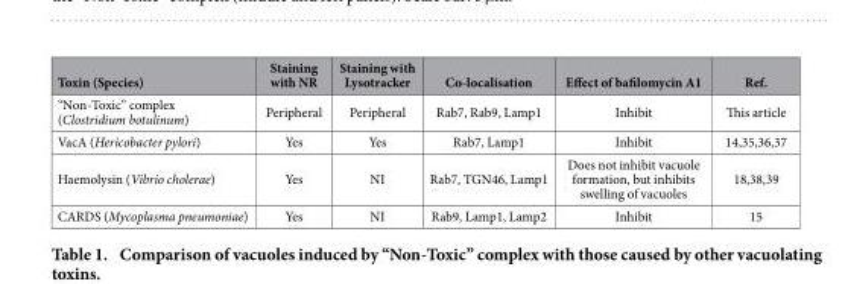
<table><thead><tr><td>Toxin (Species)</td><td>Staining with NR</td><td>Staining with Lysotracker</td><td>Co-localisation</td><td>Effect of bafilomycin A1</td><td>Ref.</td></tr></thead><tbody><tr><td>“Non-Toxic” complex (Clostridium botulinum)</td><td>Peripheral</td><td>Peripheral</td><td>Rab7, Rab9, Lamp1</td><td>Inhibit</td><td>This article</td></tr><tr><td>VacA (Hericobacter pylori)</td><td>Yes</td><td>Yes</td><td>Rab7, Lamp1</td><td>Inhibit</td><td>14,35,36,37</td></tr><tr><td>Haemolysin (Vibrio cholerae)</td><td>Yes</td><td>NI</td><td>Rab7, TGN46, Lamp1</td><td>Does not inhibit vacuole formation, but inhibits swelling of vacuoles</td><td>18,38,39</td></tr><tr><td>CARDS (Mycoplasma pneumoniae)</td><td>Yes</td><td>NI</td><td>Rab9, Lamp1, Lamp2</td><td>Inhibit</td><td>15</td></tr></tbody></table>